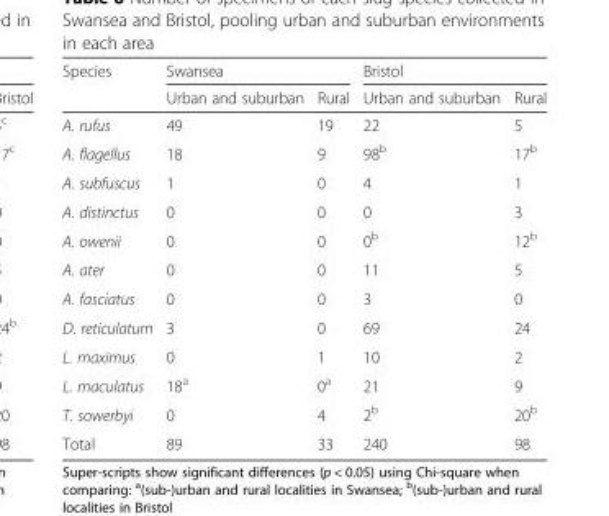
<table><thead><tr><td rowspan="2">Species</td><td colspan="2">Swansea</td><td colspan="2">Bristol</td></tr><tr><td>Urban and suburban</td><td>Rural</td><td>Urban and suburban</td><td>Rural</td></tr></thead><tbody><tr><td>A. rufus</td><td>49</td><td>19</td><td>22</td><td>5</td></tr><tr><td>A. flagellus</td><td>18</td><td>9</td><td>98<sup>b</sup></td><td>17<sup>b</sup></td></tr><tr><td>A. subfuscus</td><td>1</td><td>0</td><td>4</td><td>1</td></tr><tr><td>A. distinctus</td><td>0</td><td>0</td><td>0</td><td>3</td></tr><tr><td>A. owenii</td><td>0</td><td>0</td><td>0<sup>b</sup></td><td>12<sup>b</sup></td></tr><tr><td>A. ater</td><td>0</td><td>0</td><td>11</td><td>5</td></tr><tr><td>A. fasciatus</td><td>0</td><td>0</td><td>3</td><td>0</td></tr><tr><td>D. reticulatum</td><td>3</td><td>0</td><td>69</td><td>24</td></tr><tr><td>L. maximus</td><td>0</td><td>1</td><td>10</td><td>2</td></tr><tr><td>L. maculatus</td><td>18<sup>a</sup></td><td>0<sup>a</sup></td><td>21</td><td>9</td></tr><tr><td>T. sowerbyi</td><td>0</td><td>4</td><td>2<sup>b</sup></td><td>20<sup>b</sup></td></tr><tr><td>Total</td><td>89</td><td>33</td><td>240</td><td>98</td></tr></tbody></table>